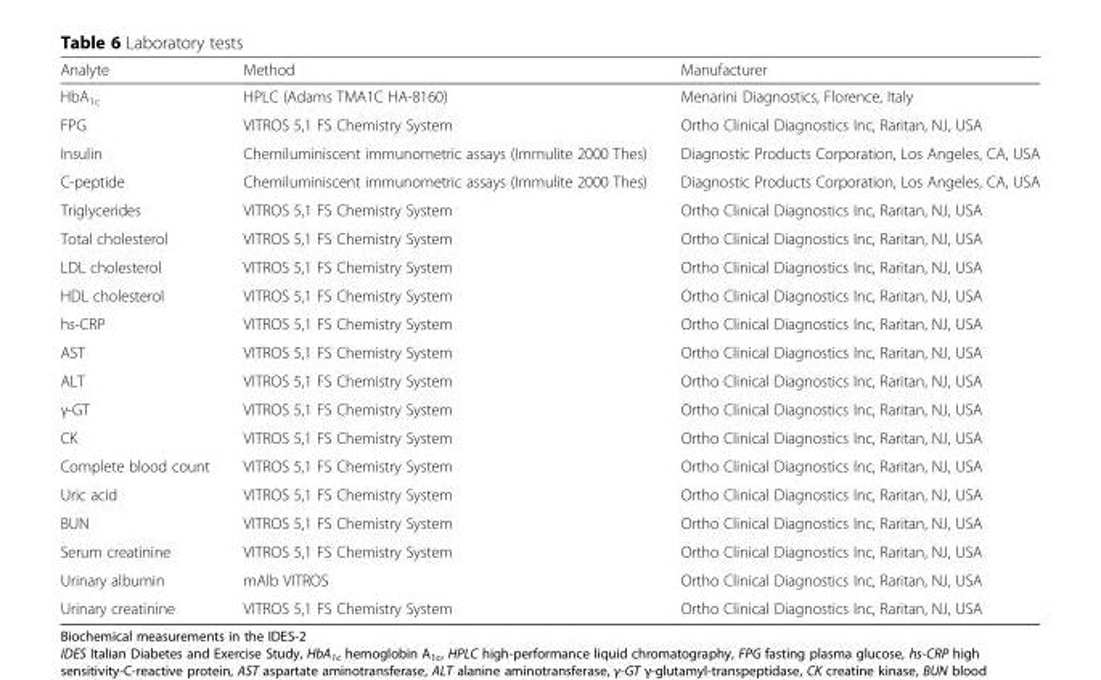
<table><thead><tr><td>Analyte</td><td>Method</td><td>Manufacturer</td></tr></thead><tbody><tr><td>HbA<sub>1c</sub></td><td>HPLC (Adams TMA1C HA-8160)</td><td>Menarini Diagnostics, Florence, Italy</td></tr><tr><td>FPG</td><td>VITROS 5,1 FS Chemistry System</td><td>Ortho Clinical Diagnostics Inc, Raritan, NJ, USA</td></tr><tr><td>Insulin</td><td>Chemiluminiscent immunometric assays (Immulite 2000 Thes)</td><td>Diagnostic Products Corporation, Los Angeles, CA, USA</td></tr><tr><td>C-peptide</td><td>Chemiluminiscent immunometric assays (Immulite 2000 Thes)</td><td>Diagnostic Products Corporation, Los Angeles, CA, USA</td></tr><tr><td>Triglycerides</td><td>VITROS 5,1 FS Chemistry System</td><td>Ortho Clinical Diagnostics Inc, Raritan, NJ, USA</td></tr><tr><td>Total cholesterol</td><td>VITROS 5,1 FS Chemistry System</td><td>Ortho Clinical Diagnostics Inc, Raritan, NJ, USA</td></tr><tr><td>LDL cholesterol</td><td>VITROS 5,1 FS Chemistry System</td><td>Ortho Clinical Diagnostics Inc, Raritan, NJ, USA</td></tr><tr><td>HDL cholesterol</td><td>VITROS 5,1 FS Chemistry System</td><td>Ortho Clinical Diagnostics Inc, Raritan, NJ, USA</td></tr><tr><td>hs-CRP</td><td>VITROS 5,1 FS Chemistry System</td><td>Ortho Clinical Diagnostics Inc, Raritan, NJ, USA</td></tr><tr><td>AST</td><td>VITROS 5,1 FS Chemistry System</td><td>Ortho Clinical Diagnostics Inc, Raritan, NJ, USA</td></tr><tr><td>ALT</td><td>VITROS 5,1 FS Chemistry System</td><td>Ortho Clinical Diagnostics Inc, Raritan, NJ, USA</td></tr><tr><td>γ-GT</td><td>VITROS 5,1 FS Chemistry System</td><td>Ortho Clinical Diagnostics Inc, Raritan, NJ, USA</td></tr><tr><td>CK</td><td>VITROS 5,1 FS Chemistry System</td><td>Ortho Clinical Diagnostics Inc, Raritan, NJ, USA</td></tr><tr><td>Complete blood count</td><td>VITROS 5,1 FS Chemistry System</td><td>Ortho Clinical Diagnostics Inc, Raritan, NJ, USA</td></tr><tr><td>Uric acid</td><td>VITROS 5,1 FS Chemistry System</td><td>Ortho Clinical Diagnostics Inc, Raritan, NJ, USA</td></tr><tr><td>BUN</td><td>VITROS 5,1 FS Chemistry System</td><td>Ortho Clinical Diagnostics Inc, Raritan, NJ, USA</td></tr><tr><td>Serum creatinine</td><td>VITROS 5,1 FS Chemistry System</td><td>Ortho Clinical Diagnostics Inc, Raritan, NJ, USA</td></tr><tr><td>Urinary albumin</td><td>mAlb VITROS</td><td>Ortho Clinical Diagnostics Inc, Raritan, NJ, USA</td></tr><tr><td>Urinary creatinine</td><td>VITROS 5,1 FS Chemistry System</td><td>Ortho Clinical Diagnostics Inc, Raritan, NJ, USA</td></tr></tbody></table>